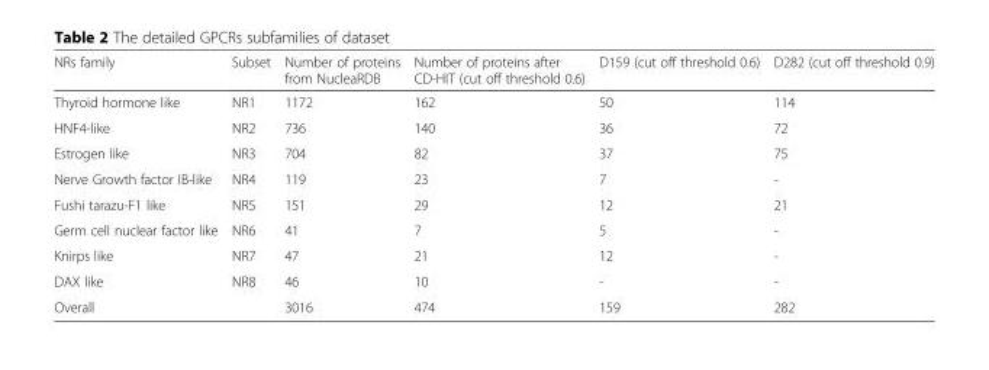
<table><thead><tr><td>NRs family</td><td>Subset</td><td>Number of proteins from NucleaRDB</td><td>Number of proteins after CD-HIT (cut off threshold 0.6)</td><td>D159 (cut off threshold 0.6)</td><td>D282 (cut off threshold 0.9)</td></tr></thead><tbody><tr><td>Thyroid hormone like</td><td>NR1</td><td>1172</td><td>162</td><td>50</td><td>114</td></tr><tr><td>HNF4-like</td><td>NR2</td><td>736</td><td>140</td><td>36</td><td>72</td></tr><tr><td>Estrogen like</td><td>NR3</td><td>704</td><td>82</td><td>37</td><td>75</td></tr><tr><td>Nerve Growth factor IB-like</td><td>NR4</td><td>119</td><td>23</td><td>7</td><td>-</td></tr><tr><td>Fushi tarazu-F1 like</td><td>NR5</td><td>151</td><td>29</td><td>12</td><td>21</td></tr><tr><td>Germ cell nuclear factor like</td><td>NR6</td><td>41</td><td>7</td><td>5</td><td>-</td></tr><tr><td>Knirps like</td><td>NR7</td><td>47</td><td>21</td><td>12</td><td>-</td></tr><tr><td>DAX like</td><td>NR8</td><td>46</td><td>10</td><td>-</td><td>-</td></tr><tr><td>Overall</td><td></td><td>3016</td><td>474</td><td>159</td><td>282</td></tr></tbody></table>